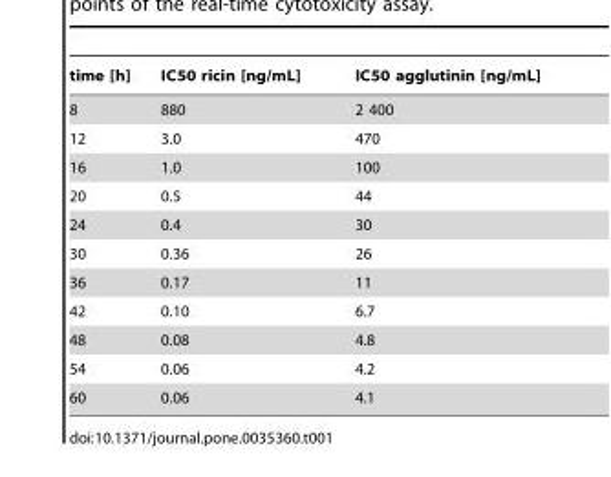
<table><thead><tr><td>time [h]</td><td>IC50 ricin [ng/mL]</td><td>IC50 agglutinin [ng/mL]</td></tr></thead><tbody><tr><td>8</td><td>880</td><td>2 400</td></tr><tr><td>12</td><td>3.0</td><td>470</td></tr><tr><td>16</td><td>1.0</td><td>100</td></tr><tr><td>20</td><td>0.5</td><td>44</td></tr><tr><td>24</td><td>0.4</td><td>30</td></tr><tr><td>30</td><td>0.36</td><td>26</td></tr><tr><td>36</td><td>0.17</td><td>11</td></tr><tr><td>42</td><td>0.10</td><td>6.7</td></tr><tr><td>48</td><td>0.08</td><td>4.8</td></tr><tr><td>54</td><td>0.06</td><td>4.2</td></tr><tr><td>60</td><td>0.06</td><td>4.1</td></tr></tbody></table>